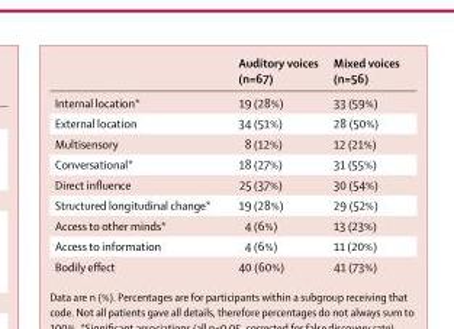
<table><thead><tr><td></td><td>Auditory voices (n=67)</td><td>Mixed voices (n=56)</td></tr></thead><tbody><tr><td>Internal location*</td><td>19 (28%)</td><td>33 (59%)</td></tr><tr><td>External location</td><td>34 (51%)</td><td>28 (50%)</td></tr><tr><td>Multisensory</td><td>8 (12%)</td><td>12 (21%)</td></tr><tr><td>Conversational*</td><td>18 (27%)</td><td>31 (55%)</td></tr><tr><td>Direct infl uence</td><td>25 (37%)</td><td>30 (54%)</td></tr><tr><td>Structured longitudinal change*</td><td>19 (28%)</td><td>29 (52%)</td></tr><tr><td>Access to other minds*</td><td>4 (6%)</td><td>13 (23%)</td></tr><tr><td>Access to information</td><td>4 (6%)</td><td>11 (20%)</td></tr><tr><td>Bodily eff ect</td><td>40 (60%)</td><td>41 (73%)</td></tr></tbody></table>